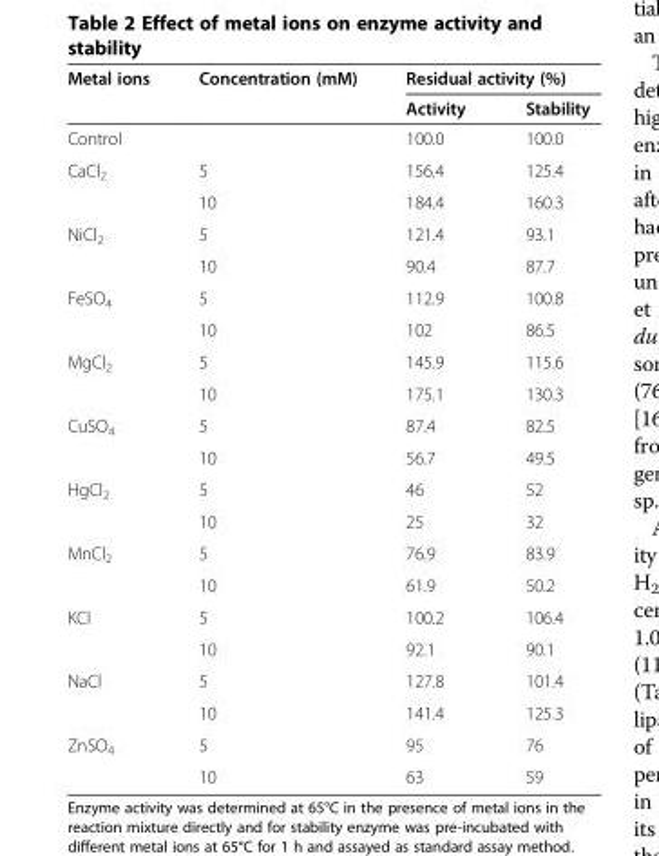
<table><thead><tr><td rowspan="2">Metal ions</td><td rowspan="2">Concentration (mM)</td><td colspan="2">Residual activity (%)</td></tr><tr><td>Activity</td><td>Stability</td></tr></thead><tbody><tr><td>Control</td><td></td><td>100.0</td><td>100.0</td></tr><tr><td rowspan="2">CaCl<sub>2</sub></td><td>5</td><td>156.4</td><td>125.4</td></tr><tr><td>10</td><td>184.4</td><td>160.3</td></tr><tr><td rowspan="2">NiCl<sub>2</sub></td><td>5</td><td>121.4</td><td>93.1</td></tr><tr><td>10</td><td>90.4</td><td>87.7</td></tr><tr><td rowspan="2">FeSO<sub>4</sub></td><td>5</td><td>112.9</td><td>100.8</td></tr><tr><td>10</td><td>102</td><td>86.5</td></tr><tr><td rowspan="2">MgCl<sub>2</sub></td><td>5</td><td>145.9</td><td>115.6</td></tr><tr><td>10</td><td>175.1</td><td>130.3</td></tr><tr><td rowspan="2">CuSO<sub>4</sub></td><td>5</td><td>87.4</td><td>82.5</td></tr><tr><td>10</td><td>56.7</td><td>49.5</td></tr><tr><td rowspan="2">HgCl<sub>2</sub></td><td>5</td><td>46</td><td>52</td></tr><tr><td>10</td><td>25</td><td>32</td></tr><tr><td rowspan="2">MnCl<sub>2</sub></td><td>5</td><td>76.9</td><td>83.9</td></tr><tr><td>10</td><td>61.9</td><td>50.2</td></tr><tr><td rowspan="2">KCl</td><td>5</td><td>100.2</td><td>106.4</td></tr><tr><td>10</td><td>92.1</td><td>90.1</td></tr><tr><td rowspan="2">NaCl</td><td>5</td><td>127.8</td><td>101.4</td></tr><tr><td>10</td><td>141.4</td><td>125.3</td></tr><tr><td rowspan="2">ZnSO<sub>4</sub></td><td>5</td><td>95</td><td>76</td></tr><tr><td>10</td><td>63</td><td>59</td></tr></tbody></table>